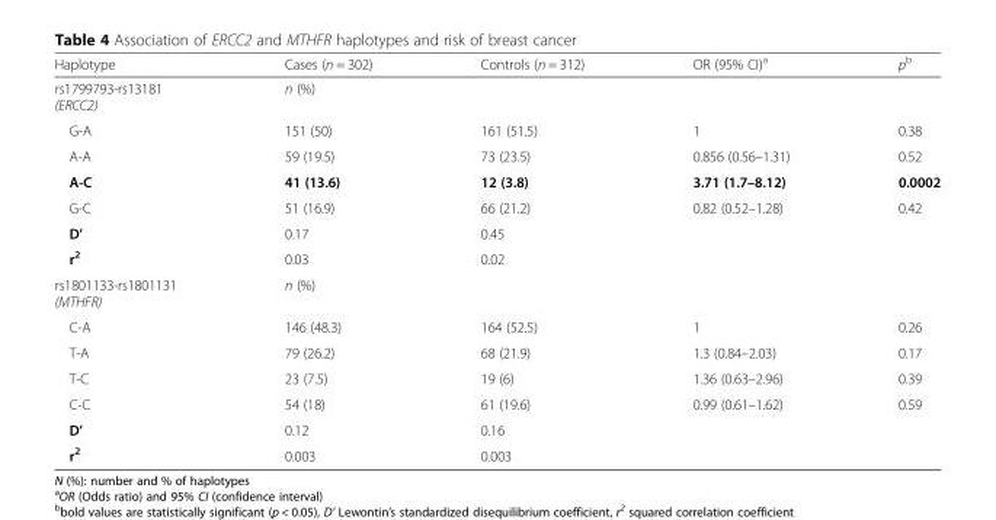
<table><thead><tr><td>Haplotype</td><td>Cases (n = 302)</td><td>Controls (n = 312)</td><td>OR (95% CI)<sup>a</sup></td><td>p<sup>b</sup></td></tr></thead><tbody><tr><td>rs1799793-rs13181 (ERCC2)</td><td colspan="2">n (%)</td><td></td><td></td></tr><tr><td>G-A</td><td>151 (50)</td><td>161 (51.5)</td><td>1</td><td>0.38</td></tr><tr><td>A-A</td><td>59 (19.5)</td><td>73 (23.5)</td><td>0.856 (0.56–1.31)</td><td>0.52</td></tr><tr><td>A-C</td><td>41 (13.6)</td><td>12 (3.8)</td><td>3.71 (1.7–8.12)</td><td>0.0002</td></tr><tr><td>G-C</td><td>51 (16.9)</td><td>66 (21.2)</td><td>0.82 (0.52–1.28)</td><td>0.42</td></tr><tr><td>D’</td><td>0.17</td><td>0.45</td><td></td><td></td></tr><tr><td>r<sup>2</sup></td><td>0.03</td><td>0.02</td><td></td><td></td></tr><tr><td>rs1801133-rs1801131 (MTHFR)</td><td colspan="2">n (%)</td><td></td><td></td></tr><tr><td>C-A</td><td>146 (48.3)</td><td>164 (52.5)</td><td>1</td><td>0.26</td></tr><tr><td>T-A</td><td>79 (26.2)</td><td>68 (21.9)</td><td>1.3 (0.84–2.03)</td><td>0.17</td></tr><tr><td>T-C</td><td>23 (7.5)</td><td>19 (6)</td><td>1.36 (0.63–2.96)</td><td>0.39</td></tr><tr><td>C-C</td><td>54 (18)</td><td>61 (19.6)</td><td>0.99 (0.61–1.62)</td><td>0.59</td></tr><tr><td>D’</td><td>0.12</td><td>0.16</td><td></td><td></td></tr><tr><td>r<sup>2</sup></td><td>0.003</td><td>0.003</td><td></td><td></td></tr></tbody></table>